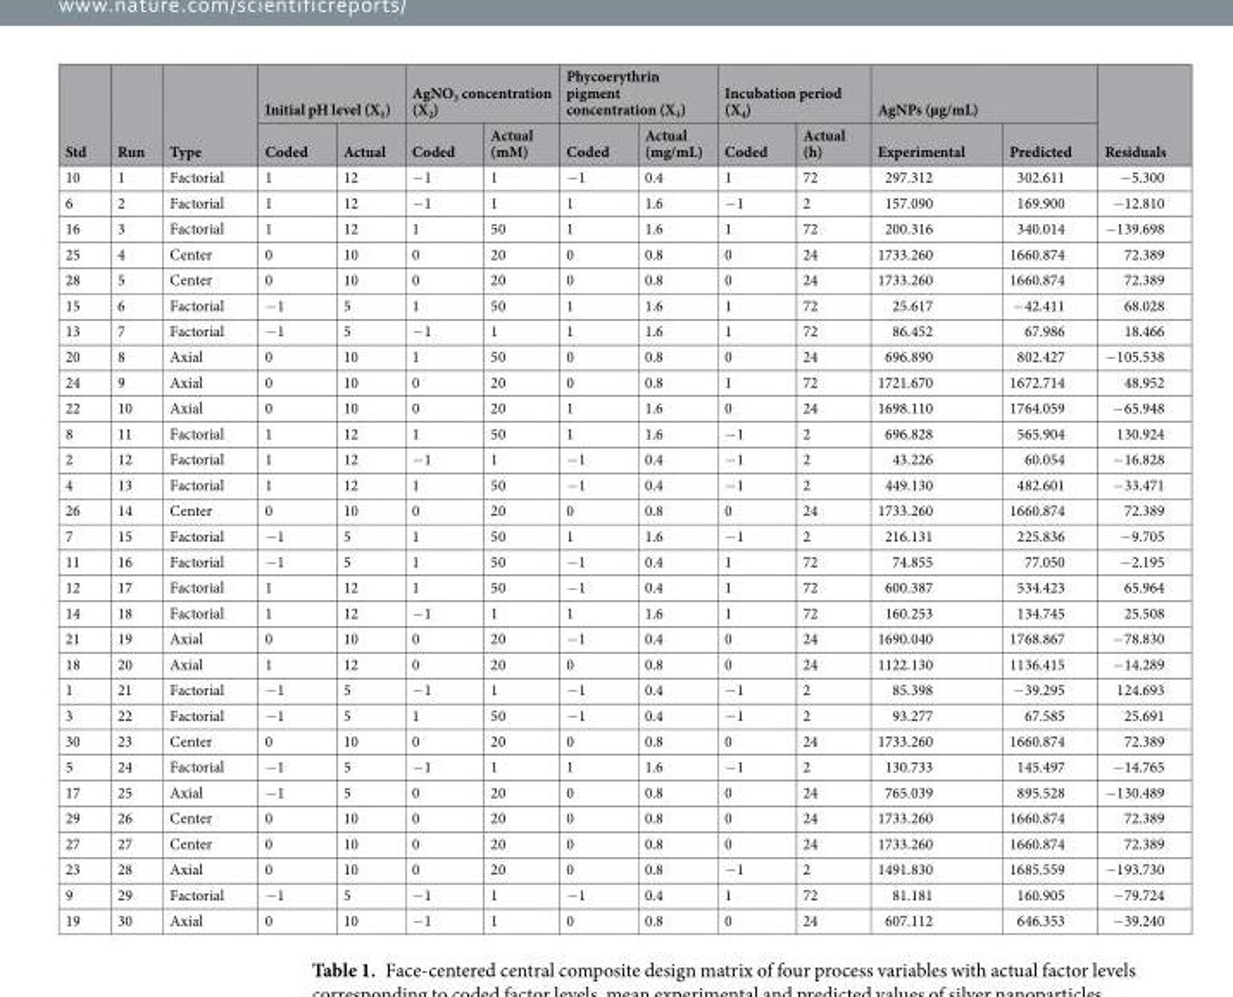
<table><thead><tr><td rowspan="2">Std</td><td rowspan="2">Run</td><td rowspan="2">Type</td><td colspan="2">Initial pH level (X<sub>1</sub>)</td><td colspan="2">AgNO<sub>3</sub> concentration (X<sub>2</sub>)</td><td colspan="2">Phycoerythrin pigment concentration (X<sub>3</sub>)</td><td colspan="2">Incubation period (X<sub>4</sub>)</td><td colspan="2">AgNPs (µg/mL)</td><td rowspan="2">Residuals</td></tr><tr><td>Coded</td><td>Actual</td><td>Coded</td><td>Actual (mM)</td><td>Coded</td><td>Actual (mg/mL)</td><td>Coded</td><td>Actual (h)</td><td>Experimental</td><td>Predicted</td></tr></thead><tbody><tr><td>10</td><td>1</td><td>Factorial</td><td>1</td><td>12</td><td>−1</td><td>1</td><td>−1</td><td>0.4</td><td>1</td><td>72</td><td>297.312</td><td>302.611</td><td>−5.300</td></tr><tr><td>6</td><td>2</td><td>Factorial</td><td>1</td><td>12</td><td>−1</td><td>1</td><td>1</td><td>1.6</td><td>−1</td><td>2</td><td>157.090</td><td>169.900</td><td>−12.810</td></tr><tr><td>16</td><td>3</td><td>Factorial</td><td>1</td><td>12</td><td>1</td><td>50</td><td>1</td><td>1.6</td><td>1</td><td>72</td><td>200.316</td><td>340.014</td><td>−139.698</td></tr><tr><td>25</td><td>4</td><td>Center</td><td>0</td><td>10</td><td>0</td><td>20</td><td>0</td><td>0.8</td><td>0</td><td>24</td><td>1733.260</td><td>1660.874</td><td>72.389</td></tr><tr><td>28</td><td>5</td><td>Center</td><td>0</td><td>10</td><td>0</td><td>20</td><td>0</td><td>0.8</td><td>0</td><td>24</td><td>1733.260</td><td>1660.874</td><td>72.389</td></tr><tr><td>15</td><td>6</td><td>Factorial</td><td>−1</td><td>5</td><td>1</td><td>50</td><td>1</td><td>1.6</td><td>1</td><td>72</td><td>25.617</td><td>−42.411</td><td>68.028</td></tr><tr><td>13</td><td>7</td><td>Factorial</td><td>−1</td><td>5</td><td>−1</td><td>1</td><td>1</td><td>1.6</td><td>1</td><td>72</td><td>86.452</td><td>67.986</td><td>18.466</td></tr><tr><td>20</td><td>8</td><td>Axial</td><td>0</td><td>10</td><td>1</td><td>50</td><td>0</td><td>0.8</td><td>0</td><td>24</td><td>696.890</td><td>802.427</td><td>−105.538</td></tr><tr><td>24</td><td>9</td><td>Axial</td><td>0</td><td>10</td><td>0</td><td>20</td><td>0</td><td>0.8</td><td>1</td><td>72</td><td>1721.670</td><td>1672.714</td><td>48.952</td></tr><tr><td>22</td><td>10</td><td>Axial</td><td>0</td><td>10</td><td>0</td><td>20</td><td>1</td><td>1.6</td><td>0</td><td>24</td><td>1698.110</td><td>1764.059</td><td>−65.948</td></tr><tr><td>8</td><td>11</td><td>Factorial</td><td>1</td><td>12</td><td>1</td><td>50</td><td>1</td><td>1.6</td><td>−1</td><td>2</td><td>696.828</td><td>565.904</td><td>130.924</td></tr><tr><td>2</td><td>12</td><td>Factorial</td><td>1</td><td>12</td><td>−1</td><td>1</td><td>−1</td><td>0.4</td><td>−1</td><td>2</td><td>43.226</td><td>60.054</td><td>−16.828</td></tr><tr><td>4</td><td>13</td><td>Factorial</td><td>1</td><td>12</td><td>1</td><td>50</td><td>−1</td><td>0.4</td><td>−1</td><td>2</td><td>449.130</td><td>482.601</td><td>−33.471</td></tr><tr><td>26</td><td>14</td><td>Center</td><td>0</td><td>10</td><td>0</td><td>20</td><td>0</td><td>0.8</td><td>0</td><td>24</td><td>1733.260</td><td>1660.874</td><td>72.389</td></tr><tr><td>7</td><td>15</td><td>Factorial</td><td>−1</td><td>5</td><td>1</td><td>50</td><td>1</td><td>1.6</td><td>−1</td><td>2</td><td>216.131</td><td>225.836</td><td>−9.705</td></tr><tr><td>11</td><td>16</td><td>Factorial</td><td>−1</td><td>5</td><td>1</td><td>50</td><td>−1</td><td>0.4</td><td>1</td><td>72</td><td>74.855</td><td>77.050</td><td>−2.195</td></tr><tr><td>12</td><td>17</td><td>Factorial</td><td>1</td><td>12</td><td>1</td><td>50</td><td>−1</td><td>0.4</td><td>1</td><td>72</td><td>600.387</td><td>534.423</td><td>65.964</td></tr><tr><td>14</td><td>18</td><td>Factorial</td><td>1</td><td>12</td><td>−1</td><td>1</td><td>1</td><td>1.6</td><td>1</td><td>72</td><td>160.253</td><td>134.745</td><td>25.508</td></tr><tr><td>21</td><td>19</td><td>Axial</td><td>0</td><td>10</td><td>0</td><td>20</td><td>−1</td><td>0.4</td><td>0</td><td>24</td><td>1690.040</td><td>1768.867</td><td>−78.830</td></tr><tr><td>18</td><td>20</td><td>Axial</td><td>1</td><td>12</td><td>0</td><td>20</td><td>0</td><td>0.8</td><td>0</td><td>24</td><td>1122.130</td><td>1136.415</td><td>−14.289</td></tr><tr><td>1</td><td>21</td><td>Factorial</td><td>−1</td><td>5</td><td>−1</td><td>1</td><td>−1</td><td>0.4</td><td>−1</td><td>2</td><td>85.398</td><td>−39.295</td><td>124.693</td></tr><tr><td>3</td><td>22</td><td>Factorial</td><td>−1</td><td>5</td><td>1</td><td>50</td><td>−1</td><td>0.4</td><td>−1</td><td>2</td><td>93.277</td><td>67.585</td><td>25.691</td></tr><tr><td>30</td><td>23</td><td>Center</td><td>0</td><td>10</td><td>0</td><td>20</td><td>0</td><td>0.8</td><td>0</td><td>24</td><td>1733.260</td><td>1660.874</td><td>72.389</td></tr><tr><td>5</td><td>24</td><td>Factorial</td><td>−1</td><td>5</td><td>−1</td><td>1</td><td>1</td><td>1.6</td><td>−1</td><td>2</td><td>130.733</td><td>145.497</td><td>−14.765</td></tr><tr><td>17</td><td>25</td><td>Axial</td><td>−1</td><td>5</td><td>0</td><td>20</td><td>0</td><td>0.8</td><td>0</td><td>24</td><td>765.039</td><td>895.528</td><td>−130.489</td></tr><tr><td>29</td><td>26</td><td>Center</td><td>0</td><td>10</td><td>0</td><td>20</td><td>0</td><td>0.8</td><td>0</td><td>24</td><td>1733.260</td><td>1660.874</td><td>72.389</td></tr><tr><td>27</td><td>27</td><td>Center</td><td>0</td><td>10</td><td>0</td><td>20</td><td>0</td><td>0.8</td><td>0</td><td>24</td><td>1733.260</td><td>1660.874</td><td>72.389</td></tr><tr><td>23</td><td>28</td><td>Axial</td><td>0</td><td>10</td><td>0</td><td>20</td><td>0</td><td>0.8</td><td>−1</td><td>2</td><td>1491.830</td><td>1685.559</td><td>−193.730</td></tr><tr><td>9</td><td>29</td><td>Factorial</td><td>−1</td><td>5</td><td>−1</td><td>1</td><td>−1</td><td>0.4</td><td>1</td><td>72</td><td>81.181</td><td>160.905</td><td>−79.724</td></tr><tr><td>19</td><td>30</td><td>Axial</td><td>0</td><td>10</td><td>−1</td><td>1</td><td>0</td><td>0.8</td><td>0</td><td>24</td><td>607.112</td><td>646.353</td><td>−39.240</td></tr></tbody></table>